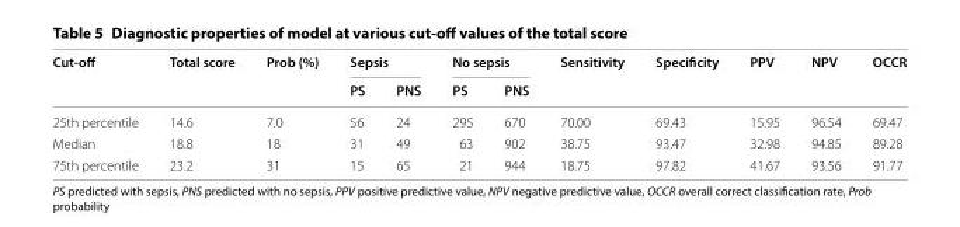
<table><thead><tr><td rowspan="2">Cut-off</td><td rowspan="2">Total score</td><td rowspan="2">Prob (%)</td><td colspan="2">Sepsis</td><td colspan="2">No sepsis</td><td rowspan="2">Sensitivity</td><td rowspan="2">Specificity</td><td rowspan="2">PPV</td><td rowspan="2">NPV</td><td rowspan="2">OCCR</td></tr><tr><td>PS</td><td>PNS</td><td>PS</td><td>PNS</td></tr></thead><tbody><tr><td>25th percentile</td><td>14.6</td><td>7.0</td><td>56</td><td>24</td><td>295</td><td>670</td><td>70.00</td><td>69.43</td><td>15.95</td><td>96.54</td><td>69.47</td></tr><tr><td>Median</td><td>18.8</td><td>18</td><td>31</td><td>49</td><td>63</td><td>902</td><td>38.75</td><td>93.47</td><td>32.98</td><td>94.85</td><td>89.28</td></tr><tr><td>75th percentile</td><td>23.2</td><td>31</td><td>15</td><td>65</td><td>21</td><td>944</td><td>18.75</td><td>97.82</td><td>41.67</td><td>93.56</td><td>91.77</td></tr></tbody></table>